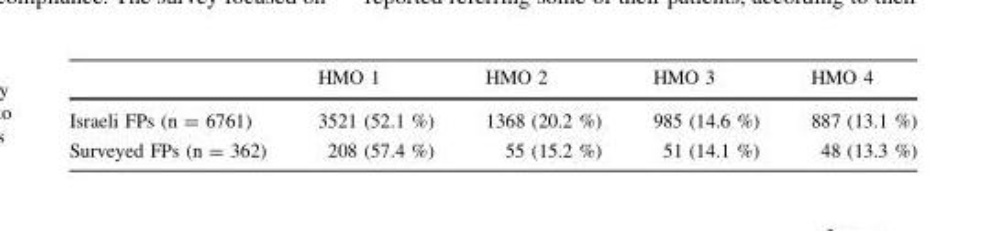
<table><thead><tr><td></td><td>HMO 1</td><td>HMO 2</td><td>HMO 3</td><td>HMO 4</td></tr></thead><tbody><tr><td>Israeli FPs (n = 6761)</td><td>3521 (52.1 %)</td><td>1368 (20.2 %)</td><td>985 (14.6 %)</td><td>887 (13.1 %)</td></tr><tr><td>Surveyed FPs (n = 362)</td><td>208 (57.4 %)</td><td>55 (15.2 %)</td><td>51 (14.1 %)</td><td>48 (13.3 %)</td></tr></tbody></table>